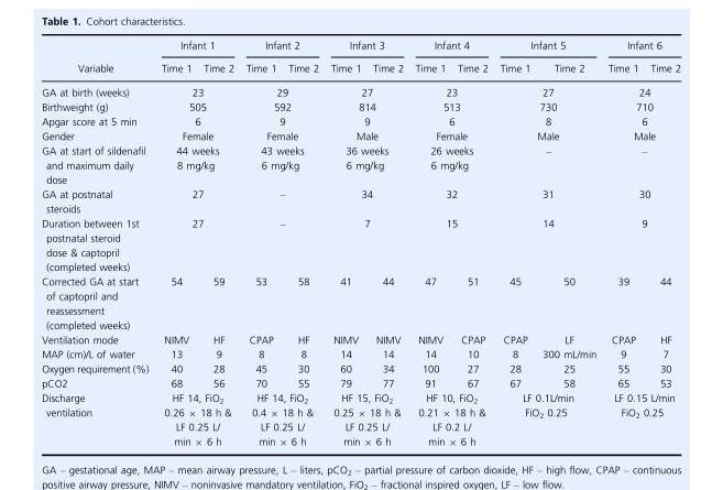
<table><thead><tr><td rowspan="2">Variable</td><td colspan="2">Infant 1</td><td colspan="2">Infant 2</td><td colspan="2">Infant 3</td><td colspan="2">Infant 4</td><td colspan="2">Infant 5</td><td colspan="2">Infant 6</td></tr><tr><td>Time 1</td><td>Time 2</td><td>Time 1</td><td>Time 2</td><td>Time 1</td><td>Time 2</td><td>Time 1</td><td>Time 2</td><td>Time 1</td><td>Time 2</td><td>Time 1</td><td>Time 2</td></tr></thead><tbody><tr><td>GA at birth (weeks)</td><td colspan="2">23</td><td colspan="2">29</td><td colspan="2">27</td><td colspan="2">23</td><td colspan="2">27</td><td colspan="2">24</td></tr><tr><td>Birthweight (g)</td><td colspan="2">505</td><td colspan="2">592</td><td colspan="2">814</td><td colspan="2">513</td><td colspan="2">730</td><td colspan="2">710</td></tr><tr><td>Apgar score at 5 min</td><td colspan="2">6</td><td colspan="2">9</td><td colspan="2">9</td><td colspan="2">6</td><td colspan="2">8</td><td colspan="2">6</td></tr><tr><td>Gender</td><td colspan="2">Female</td><td colspan="2">Female</td><td colspan="2">Male</td><td colspan="2">Female</td><td colspan="2">Male</td><td colspan="2">Male</td></tr><tr><td>GA at start of sildenafil and maximum daily dose</td><td colspan="2">44 weeks 8 mg/kg</td><td colspan="2">43 weeks 6 mg/kg</td><td colspan="2">36 weeks 6 mg/kg</td><td colspan="2">26 weeks 6 mg/kg</td><td colspan="2">–</td><td colspan="2">–</td></tr><tr><td>GA at postnatal steroids</td><td colspan="2">27</td><td colspan="2">–</td><td colspan="2">34</td><td colspan="2">32</td><td colspan="2">31</td><td colspan="2">30</td></tr><tr><td>Duration between 1st postnatal steroid dose &amp; captopril (completed weeks)</td><td colspan="2">27</td><td colspan="2">–</td><td colspan="2">7</td><td colspan="2">15</td><td colspan="2">14</td><td colspan="2">9</td></tr><tr><td>Corrected GA at start of captopril and reassessment (completed weeks)</td><td>54</td><td>59</td><td>53</td><td>58</td><td>41</td><td>44</td><td>47</td><td>51</td><td>45</td><td>50</td><td>39</td><td>44</td></tr><tr><td>Ventilation mode</td><td>NIMV</td><td>HF</td><td>CPAP</td><td>HF</td><td>NIMV</td><td>NIMV</td><td>NIMV</td><td>CPAP</td><td>CPAP</td><td>LF</td><td>CPAP</td><td>HF</td></tr><tr><td>MAP (cm)/L of water</td><td>13</td><td>9</td><td>8</td><td>8</td><td>14</td><td>14</td><td>14</td><td>10</td><td>8</td><td>300 mL/min</td><td>9</td><td>7</td></tr><tr><td>Oxygen requirement (%)</td><td>40</td><td>28</td><td>45</td><td>30</td><td>60</td><td>34</td><td>100</td><td>27</td><td>28</td><td>25</td><td>55</td><td>30</td></tr><tr><td>pCO2</td><td>68</td><td>56</td><td>70</td><td>55</td><td>79</td><td>77</td><td>91</td><td>67</td><td>67</td><td>58</td><td>65</td><td>53</td></tr><tr><td>Discharge ventilation</td><td colspan="2">HF 14, FiO<sub>2</sub> 0.26 × 18 h &amp; LF 0.25 L/ min × 6 h</td><td colspan="2">HF 14, FiO<sub>2</sub> 0.4 × 18 h &amp; LF 0.25 L/ min × 6 h</td><td colspan="2">HF 15, FiO<sub>2</sub> 0.25 × 18 h &amp; LF 0.25 L/ min × 6 h</td><td colspan="2">HF 10, FiO<sub>2</sub> 0.21 × 18 h &amp; LF 0.2 L/ min × 6 h</td><td colspan="2">LF 0.1L/min FiO<sub>2</sub> 0.25</td><td colspan="2">LF 0.15 L/min FiO<sub>2</sub> 0.25</td></tr></tbody></table>